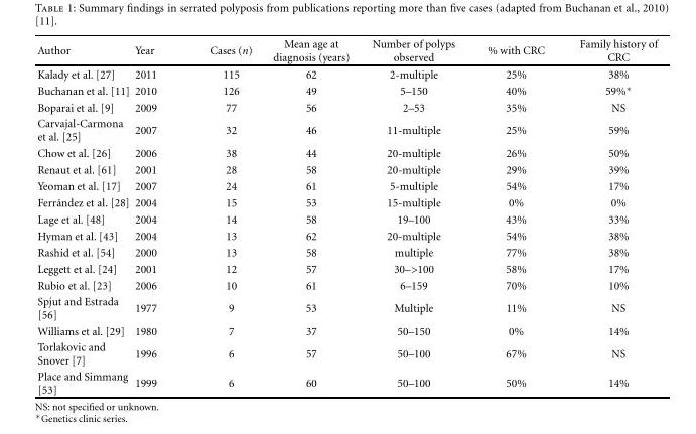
<table><thead><tr><td>Author</td><td>Year</td><td>Cases (n)</td><td>Mean age at diagnosis (years)</td><td>Number of polyps observed</td><td>% with CRC</td><td>Family history of CRC</td></tr></thead><tbody><tr><td>Kalady et al. [27]</td><td>2011</td><td>115</td><td>62</td><td>2-multiple</td><td>25%</td><td>38%</td></tr><tr><td>Buchanan et al. [11]</td><td>2010</td><td>126</td><td>49</td><td>5–150</td><td>40%</td><td>59%∗</td></tr><tr><td>Boparai et al. [9]</td><td>2009</td><td>77</td><td>56</td><td>2–53</td><td>35%</td><td>NS</td></tr><tr><td>Carvajal-Carmona et al. [25]</td><td>2007</td><td>32</td><td>46</td><td>11-multiple</td><td>25%</td><td>59%</td></tr><tr><td>Chow et al. [26]</td><td>2006</td><td>38</td><td>44</td><td>20-multiple</td><td>26%</td><td>50%</td></tr><tr><td>Renaut et al. [61]</td><td>2001</td><td>28</td><td>58</td><td>20-multiple</td><td>29%</td><td>39%</td></tr><tr><td>Yeoman et al. [17]</td><td>2007</td><td>24</td><td>61</td><td>5-multiple</td><td>54%</td><td>17%</td></tr><tr><td>Ferr´andez et al. [28]</td><td>2004</td><td>15</td><td>53</td><td>15-multiple</td><td>0%</td><td>0%</td></tr><tr><td>Lage et al. [48]</td><td>2004</td><td>14</td><td>58</td><td>19–100</td><td>43%</td><td>33%</td></tr><tr><td>Hyman et al. [43]</td><td>2004</td><td>13</td><td>62</td><td>20-multiple</td><td>54%</td><td>38%</td></tr><tr><td>Rashid et al. [54]</td><td>2000</td><td>13</td><td>58</td><td>multiple</td><td>77%</td><td>38%</td></tr><tr><td>Leggett et al. [24]</td><td>2001</td><td>12</td><td>57</td><td>30–&gt;100</td><td>58%</td><td>17%</td></tr><tr><td>Rubio et al. [23]</td><td>2006</td><td>10</td><td>61</td><td>6–159</td><td>70%</td><td>10%</td></tr><tr><td>Spjut and Estrada [56]</td><td>1977</td><td>9</td><td>53</td><td>Multiple</td><td>11%</td><td>NS</td></tr><tr><td>Williams et al. [29]</td><td>1980</td><td>7</td><td>37</td><td>50–150</td><td>0%</td><td>14%</td></tr><tr><td>Torlakovic and Snover [7]</td><td>1996</td><td>6</td><td>57</td><td>50–100</td><td>67%</td><td>NS</td></tr><tr><td>Place and Simmang [53]</td><td>1999</td><td>6</td><td>60</td><td>50–100</td><td>50%</td><td>14%</td></tr></tbody></table>